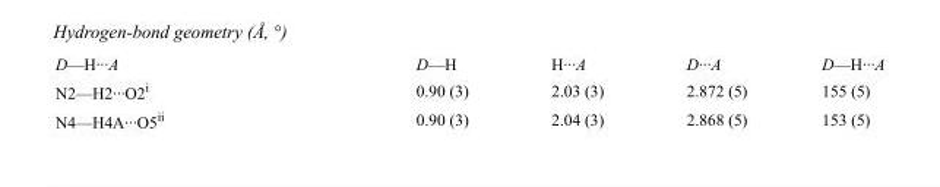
<table><tbody><tr><td>D—H···A</td><td>D—H</td><td>H···A</td><td>D···A</td><td>D—H···A</td></tr><tr><td>N2—H2···O2<sup>i</sup></td><td>0.90 (3)</td><td>2.03 (3)</td><td>2.872 (5)</td><td>155 (5)</td></tr><tr><td>N4—H4A···O5<sup>ii</sup></td><td>0.90 (3)</td><td>2.04 (3)</td><td>2.868 (5)</td><td>153 (5)</td></tr></tbody></table>